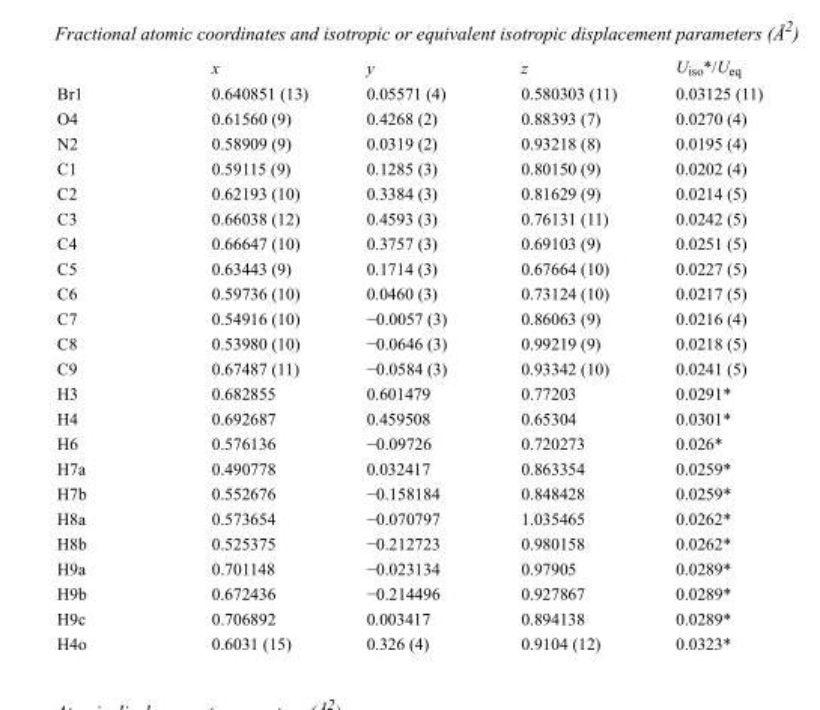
<table><thead><tr><td></td><td>x</td><td>y</td><td>z</td><td>U<sub>iso</sub>*/U<sub>eq</sub></td></tr></thead><tbody><tr><td>Br1</td><td>0.640851 (13)</td><td>0.05571 (4)</td><td>0.580303 (11)</td><td>0.03125 (11)</td></tr><tr><td>O4</td><td>0.61560 (9)</td><td>0.4268 (2)</td><td>0.88393 (7)</td><td>0.0270 (4)</td></tr><tr><td>N2</td><td>0.58909 (9)</td><td>0.0319 (2)</td><td>0.93218 (8)</td><td>0.0195 (4)</td></tr><tr><td>C1</td><td>0.59115 (9)</td><td>0.1285 (3)</td><td>0.80150 (9)</td><td>0.0202 (4)</td></tr><tr><td>C2</td><td>0.62193 (10)</td><td>0.3384 (3)</td><td>0.81629 (9)</td><td>0.0214 (5)</td></tr><tr><td>C3</td><td>0.66038 (12)</td><td>0.4593 (3)</td><td>0.76131 (11)</td><td>0.0242 (5)</td></tr><tr><td>C4</td><td>0.66647 (10)</td><td>0.3757 (3)</td><td>0.69103 (9)</td><td>0.0251 (5)</td></tr><tr><td>C5</td><td>0.63443 (9)</td><td>0.1714 (3)</td><td>0.67664 (10)</td><td>0.0227 (5)</td></tr><tr><td>C6</td><td>0.59736 (10)</td><td>0.0460 (3)</td><td>0.73124 (10)</td><td>0.0217 (5)</td></tr><tr><td>C7</td><td>0.54916 (10)</td><td>−0.0057 (3)</td><td>0.86063 (9)</td><td>0.0216 (4)</td></tr><tr><td>C8</td><td>0.53980 (10)</td><td>−0.0646 (3)</td><td>0.99219 (9)</td><td>0.0218 (5)</td></tr><tr><td>C9</td><td>0.67487 (11)</td><td>−0.0584 (3)</td><td>0.93342 (10)</td><td>0.0241 (5)</td></tr><tr><td>H3</td><td>0.682855</td><td>0.601479</td><td>0.77203</td><td>0.0291*</td></tr><tr><td>H4</td><td>0.692687</td><td>0.459508</td><td>0.65304</td><td>0.0301*</td></tr><tr><td>H6</td><td>0.576136</td><td>−0.09726</td><td>0.720273</td><td>0.026*</td></tr><tr><td>H7a</td><td>0.490778</td><td>0.032417</td><td>0.863354</td><td>0.0259*</td></tr><tr><td>H7b</td><td>0.552676</td><td>−0.158184</td><td>0.848428</td><td>0.0259*</td></tr><tr><td>H8a</td><td>0.573654</td><td>−0.070797</td><td>1.035465</td><td>0.0262*</td></tr><tr><td>H8b</td><td>0.525375</td><td>−0.212723</td><td>0.980158</td><td>0.0262*</td></tr><tr><td>H9a</td><td>0.701148</td><td>−0.023134</td><td>0.97905</td><td>0.0289*</td></tr><tr><td>H9b</td><td>0.672436</td><td>−0.214496</td><td>0.927867</td><td>0.0289*</td></tr><tr><td>H9c</td><td>0.706892</td><td>0.003417</td><td>0.894138</td><td>0.0289*</td></tr><tr><td>H4o</td><td>0.6031 (15)</td><td>0.326 (4)</td><td>0.9104 (12)</td><td>0.0323*</td></tr></tbody></table>